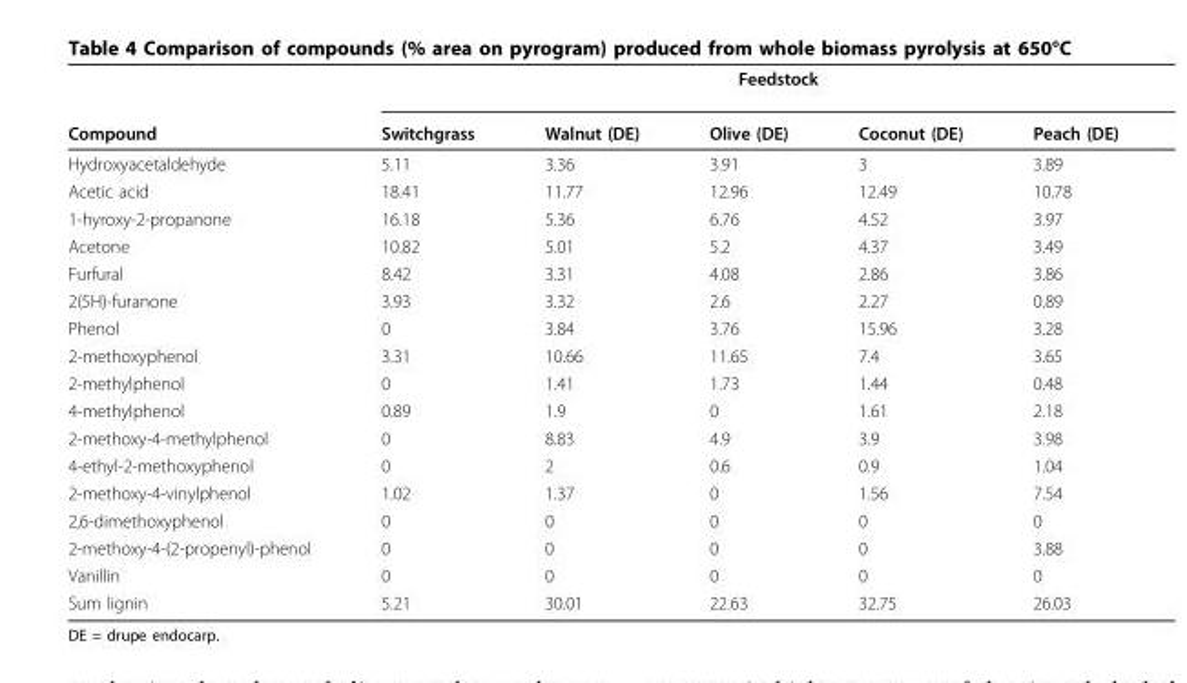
<table><thead><tr><td rowspan="2">Compound</td><td colspan="5">Feedstock</td></tr><tr><td>Switchgrass</td><td>Walnut (DE)</td><td>Olive (DE)</td><td>Coconut (DE)</td><td>Peach (DE)</td></tr></thead><tbody><tr><td>Hydroxyacetaldehyde</td><td>5.11</td><td>3.36</td><td>3.91</td><td>3</td><td>3.89</td></tr><tr><td>Acetic acid</td><td>18.41</td><td>11.77</td><td>12.96</td><td>12.49</td><td>10.78</td></tr><tr><td>1-hyroxy-2-propanone</td><td>16.18</td><td>5.36</td><td>6.76</td><td>4.52</td><td>3.97</td></tr><tr><td>Acetone</td><td>10.82</td><td>5.01</td><td>5.2</td><td>4.37</td><td>3.49</td></tr><tr><td>Furfural</td><td>8.42</td><td>3.31</td><td>4.08</td><td>2.86</td><td>3.86</td></tr><tr><td>2(5H)-furanone</td><td>3.93</td><td>3.32</td><td>2.6</td><td>2.27</td><td>0.89</td></tr><tr><td>Phenol</td><td>0</td><td>3.84</td><td>3.76</td><td>15.96</td><td>3.28</td></tr><tr><td>2-methoxyphenol</td><td>3.31</td><td>10.66</td><td>11.65</td><td>7.4</td><td>3.65</td></tr><tr><td>2-methylphenol</td><td>0</td><td>1.41</td><td>1.73</td><td>1.44</td><td>0.48</td></tr><tr><td>4-methylphenol</td><td>0.89</td><td>1.9</td><td>0</td><td>1.61</td><td>2.18</td></tr><tr><td>2-methoxy-4-methylphenol</td><td>0</td><td>8.83</td><td>4.9</td><td>3.9</td><td>3.98</td></tr><tr><td>4-ethyl-2-methoxyphenol</td><td>0</td><td>2</td><td>0.6</td><td>0.9</td><td>1.04</td></tr><tr><td>2-methoxy-4-vinylphenol</td><td>1.02</td><td>1.37</td><td>0</td><td>1.56</td><td>7.54</td></tr><tr><td>2,6-dimethoxyphenol</td><td>0</td><td>0</td><td>0</td><td>0</td><td>0</td></tr><tr><td>2-methoxy-4-(2-propenyl)-phenol</td><td>0</td><td>0</td><td>0</td><td>0</td><td>3.88</td></tr><tr><td>Vanillin</td><td>0</td><td>0</td><td>0</td><td>0</td><td>0</td></tr><tr><td>Sum lignin</td><td>5.21</td><td>30.01</td><td>22.63</td><td>32.75</td><td>26.03</td></tr></tbody></table>